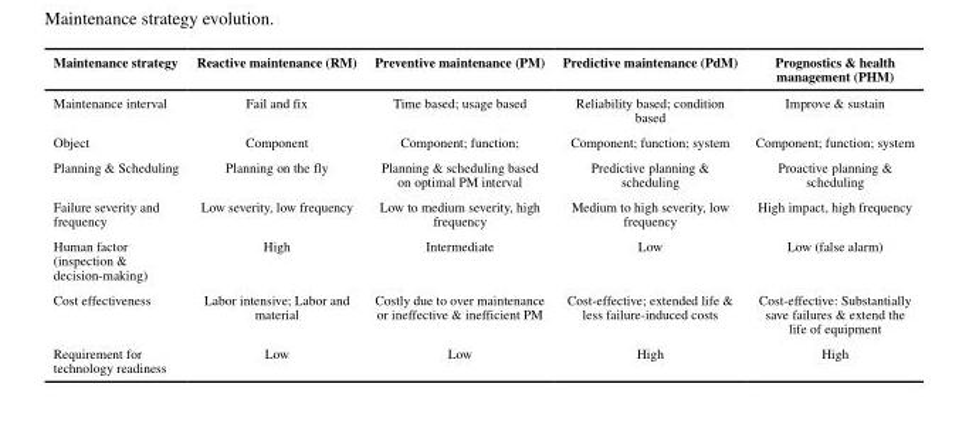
<table><thead><tr><td>Maintenance strategy</td><td>Reactive maintenance (RM)</td><td>Preventive maintenance (PM)</td><td>Predictive maintenance (PdM)</td><td>Prognostics &amp; health management (PHM)</td></tr></thead><tbody><tr><td>Maintenance interval</td><td>Fail and fix</td><td>Time based; usage based</td><td>Reliability based; condition based</td><td>Improve &amp; sustain</td></tr><tr><td>Object</td><td>Component</td><td>Component; function;</td><td>Component; function; system</td><td>Component; function; system</td></tr><tr><td>Planning &amp; Scheduling</td><td>Planning on the fly</td><td>Planning &amp; scheduling based on optimal PM interval</td><td>Predictive planning &amp; scheduling</td><td>Proactive planning &amp; scheduling</td></tr><tr><td>Failure severity and frequency</td><td>Low severity, low frequency</td><td>Low to medium severity, high frequency</td><td>Medium to high severity, low frequency</td><td>High impact, high frequency</td></tr><tr><td>Human factor (inspection &amp; decision-making)</td><td>High</td><td>Intermediate</td><td>Low</td><td>Low (false alarm)</td></tr><tr><td>Cost effectiveness</td><td>Labor intensive; Labor and material</td><td>Costly due to over maintenance or ineffective &amp; inefficient PM</td><td>Cost-effective; extended life &amp; less failure-induced costs</td><td>Cost-effective: Substantially save failures &amp; extend the life of equipment</td></tr><tr><td>Requirement for technology readiness</td><td>Low</td><td>Low</td><td>High</td><td>High</td></tr></tbody></table>